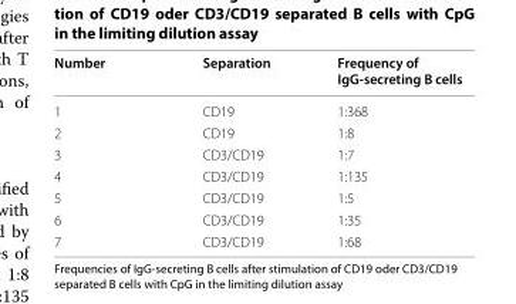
<table><thead><tr><td>Number</td><td>Separation</td><td>Frequency of IgG‑secreting B cells</td></tr></thead><tbody><tr><td>1</td><td>CD19</td><td>1:368</td></tr><tr><td>2</td><td>CD19</td><td>1:8</td></tr><tr><td>3</td><td>CD3/CD19</td><td>1:7</td></tr><tr><td>4</td><td>CD3/CD19</td><td>1:135</td></tr><tr><td>5</td><td>CD3/CD19</td><td>1:5</td></tr><tr><td>6</td><td>CD3/CD19</td><td>1:35</td></tr><tr><td>7</td><td>CD3/CD19</td><td>1:68</td></tr></tbody></table>